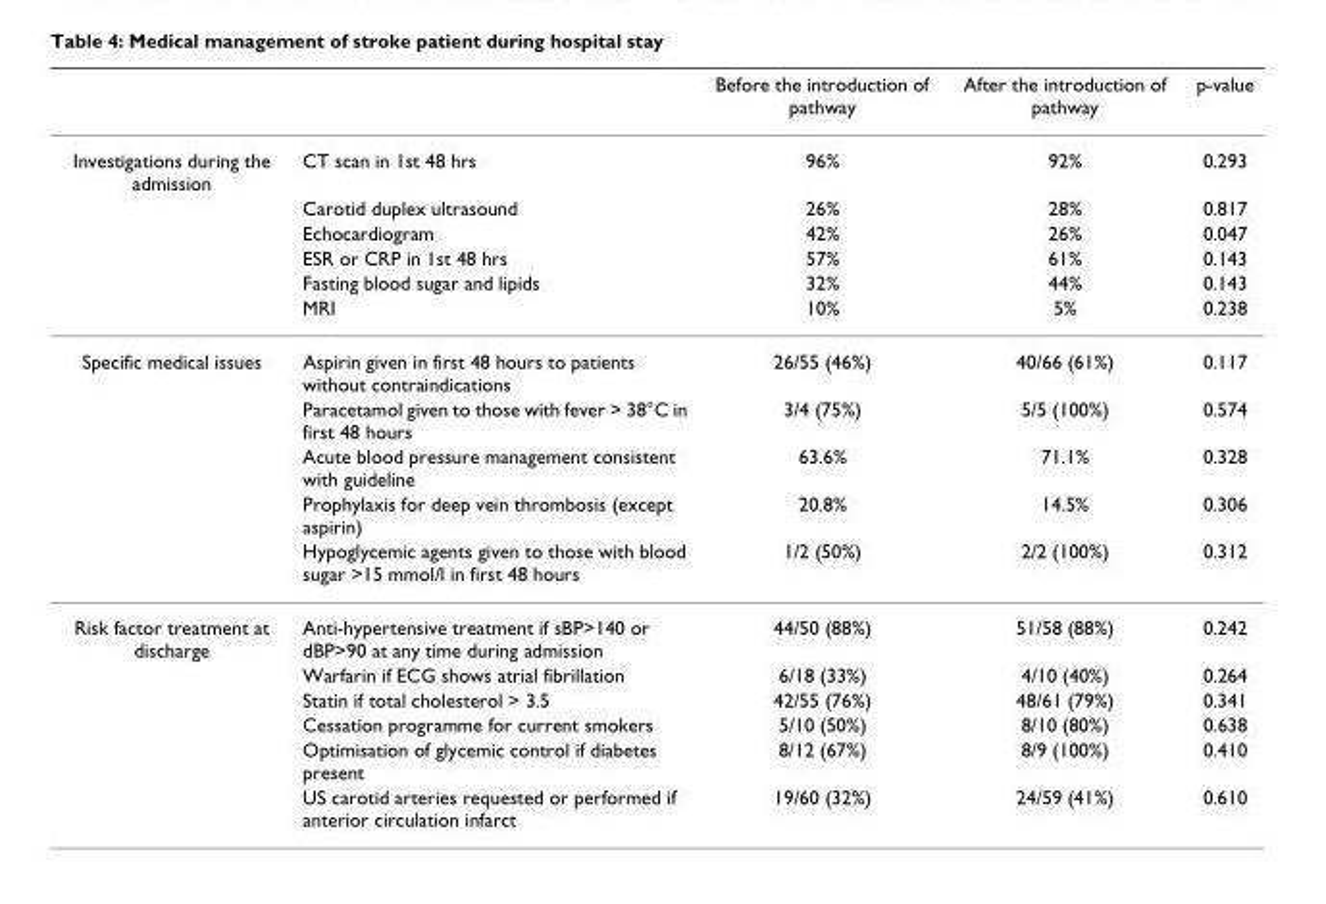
<table><thead><tr><td></td><td></td><td>Before the introduction of pathway</td><td>After the introduction of pathway</td><td>p-value</td></tr></thead><tbody><tr><td rowspan="6">Investigations during the admission</td><td>CT scan in 1st 48 hrs</td><td>96%</td><td>92%</td><td>0.293</td></tr><tr><td>Carotid duplex ultrasound</td><td>26%</td><td>28%</td><td>0.817</td></tr><tr><td>Echocardiogram</td><td>42%</td><td>26%</td><td>0.047</td></tr><tr><td>ESR or CRP in 1st 48 hrs</td><td>57%</td><td>61%</td><td>0.143</td></tr><tr><td>Fasting blood sugar and lipids</td><td>32%</td><td>44%</td><td>0.143</td></tr><tr><td>MRI</td><td>10%</td><td>5%</td><td>0.238</td></tr><tr><td rowspan="5">Specific medical issues</td><td>Aspirin given in first 48 hours to patients without contraindications</td><td>26/55 (46%)</td><td>40/66 (61%)</td><td>0.117</td></tr><tr><td>Paracetamol given to those with fever &gt; 38°C in first 48 hours</td><td>3/4 (75%)</td><td>5/5 (100%)</td><td>0.574</td></tr><tr><td>Acute blood pressure management consistent with guideline</td><td>63.6%</td><td>71.1%</td><td>0.328</td></tr><tr><td>Prophylaxis for deep vein thrombosis (except aspirin)</td><td>20.8%</td><td>14.5%</td><td>0.306</td></tr><tr><td>Hypoglycemic agents given to those with blood sugar &gt;15 mmol/l in first 48 hours</td><td>1/2 (50%)</td><td>2/2 (100%)</td><td>0.312</td></tr><tr><td rowspan="6">Risk factor treatment at discharge</td><td>Anti-hypertensive treatment if sBP&gt;140 or dBP&gt;90 at any time during admission</td><td>44/50 (88%)</td><td>51/58 (88%)</td><td>0.242</td></tr><tr><td>Warfarin if ECG shows atrial fibrillation</td><td>6/18 (33%)</td><td>4/10 (40%)</td><td>0.264</td></tr><tr><td>Statin if total cholesterol &gt; 3.5</td><td>42/55 (76%)</td><td>48/61 (79%)</td><td>0.341</td></tr><tr><td>Cessation programme for current smokers</td><td>5/10 (50%)</td><td>8/10 (80%)</td><td>0.638</td></tr><tr><td>Optimisation of glycemic control if diabetes present</td><td>8/12 (67%)</td><td>8/9 (100%)</td><td>0.410</td></tr><tr><td>US carotid arteries requested or performed if anterior circulation infarct</td><td>19/60 (32%)</td><td>24/59 (41%)</td><td>0.610</td></tr></tbody></table>